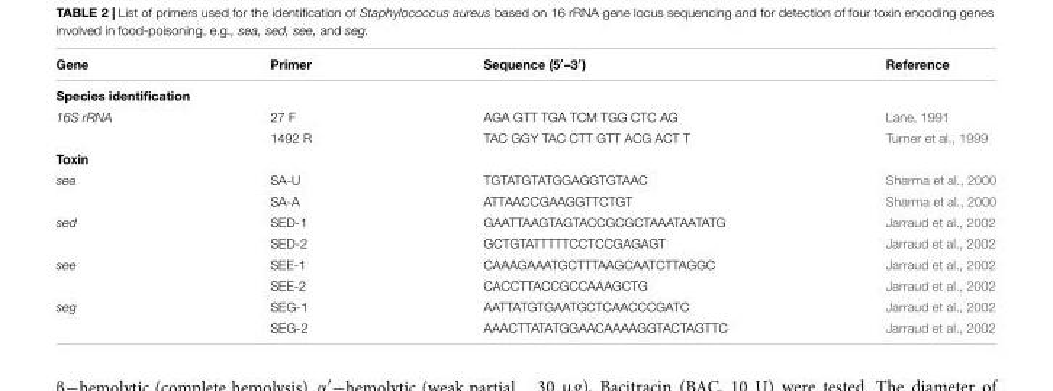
<table><thead><tr><td>Gene</td><td>Primer</td><td>Sequence (5′–3′)</td><td>Reference</td></tr></thead><tbody><tr><td colspan="4">Species identification</td></tr><tr><td rowspan="2">16S rRNA</td><td>27 F</td><td>AGA GTT TGA TCM TGG CTC AG</td><td>Lane, 1991</td></tr><tr><td>1492 R</td><td>TAC GGY TAC CTT GTT ACG ACT T</td><td>Turner et al., 1999</td></tr><tr><td colspan="4">Toxin</td></tr><tr><td rowspan="2">sea</td><td>SA-U</td><td>TGTATGTATGGAGGTGTAAC</td><td>Sharma et al., 2000</td></tr><tr><td>SA-A</td><td>ATTAACCGAAGGTTCTGT</td><td>Sharma et al., 2000</td></tr><tr><td rowspan="2">sed</td><td>SED-1</td><td>GAATTAAGTAGTACCGCGCTAAATAATATG</td><td>Jarraud et al., 2002</td></tr><tr><td>SED-2</td><td>GCTGTATTTTTCCTCCGAGAGT</td><td>Jarraud et al., 2002</td></tr><tr><td rowspan="2">see</td><td>SEE-1</td><td>CAAAGAAATGCTTTAAGCAATCTTAGGC</td><td>Jarraud et al., 2002</td></tr><tr><td>SEE-2</td><td>CACCTTACCGCCAAAGCTG</td><td>Jarraud et al., 2002</td></tr><tr><td rowspan="2">seg</td><td>SEG-1</td><td>AATTATGTGAATGCTCAACCCGATC</td><td>Jarraud et al., 2002</td></tr><tr><td>SEG-2</td><td>AAACTTATATGGAACAAAAGGTACTAGTTC</td><td>Jarraud et al., 2002</td></tr></tbody></table>